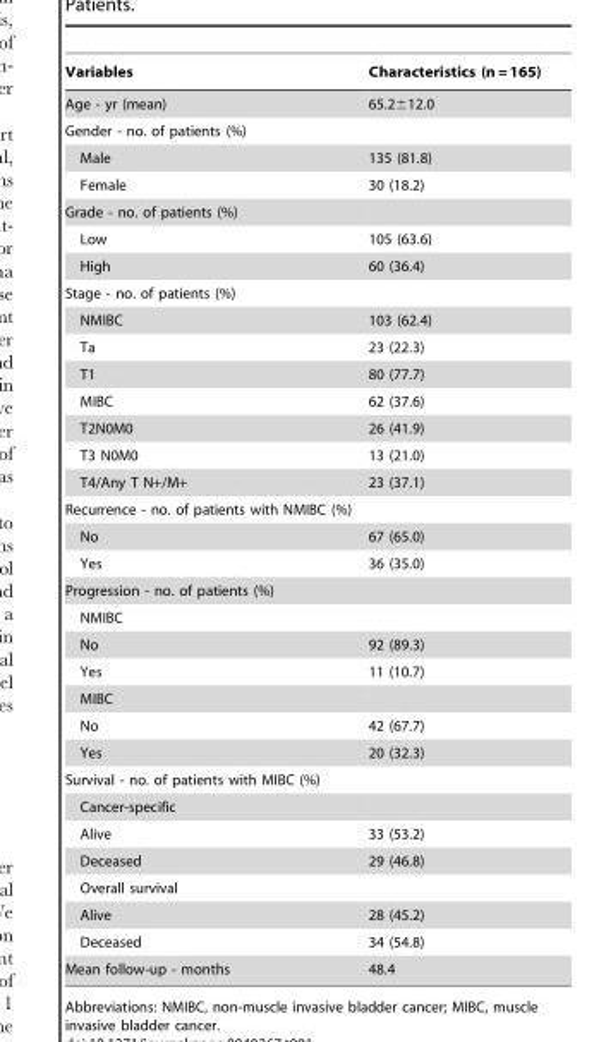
<table><thead><tr><td>Variables</td><td>Characteristics (n = 165)</td></tr></thead><tbody><tr><td>Age - yr (mean)</td><td>65.2±12.0</td></tr><tr><td colspan="2">Gender - no. of patients (%)</td></tr><tr><td>Male</td><td>135 (81.8)</td></tr><tr><td>Female</td><td>30 (18.2)</td></tr><tr><td colspan="2">Grade - no. of patients (%)</td></tr><tr><td>Low</td><td>105 (63.6)</td></tr><tr><td>High</td><td>60 (36.4)</td></tr><tr><td colspan="2">Stage - no. of patients (%)</td></tr><tr><td>NMIBC</td><td>103 (62.4)</td></tr><tr><td>Ta</td><td>23 (22.3)</td></tr><tr><td>T1</td><td>80 (77.7)</td></tr><tr><td>MIBC</td><td>62 (37.6)</td></tr><tr><td>T2N0M0</td><td>26 (41.9)</td></tr><tr><td>T3 N0M0</td><td>13 (21.0)</td></tr><tr><td>T4/Any T N+/M+</td><td>23 (37.1)</td></tr><tr><td colspan="2">Recurrence - no. of patients with NMIBC (%)</td></tr><tr><td>No</td><td>67 (65.0)</td></tr><tr><td>Yes</td><td>36 (35.0)</td></tr><tr><td colspan="2">Progression - no. of patients (%)</td></tr><tr><td colspan="2">NMIBC</td></tr><tr><td>No</td><td>92 (89.3)</td></tr><tr><td>Yes</td><td>11 (10.7)</td></tr><tr><td colspan="2">MIBC</td></tr><tr><td>No</td><td>42 (67.7)</td></tr><tr><td>Yes</td><td>20 (32.3)</td></tr><tr><td colspan="2">Survival - no. of patients with MIBC (%)</td></tr><tr><td colspan="2">Cancer-specific</td></tr><tr><td>Alive</td><td>33 (53.2)</td></tr><tr><td>Deceased</td><td>29 (46.8)</td></tr><tr><td colspan="2">Overall survival</td></tr><tr><td>Alive</td><td>28 (45.2)</td></tr><tr><td>Deceased</td><td>34 (54.8)</td></tr><tr><td>Mean follow-up - months</td><td>48.4</td></tr></tbody></table>